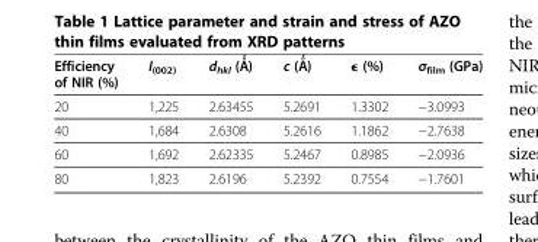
<table><thead><tr><td>Efficiency of NIR (%)</td><td>I<sub>(002)</sub></td><td>d<sub>hkl</sub> (Ǻ)</td><td>c (Ǻ)</td><td>ϵ (%)</td><td>σ<sub>film</sub> (GPa)</td></tr></thead><tbody><tr><td>20</td><td>1,225</td><td>2.63455</td><td>5.2691</td><td>1.3302</td><td>−3.0993</td></tr><tr><td>40</td><td>1,684</td><td>2.6308</td><td>5.2616</td><td>1.1862</td><td>−2.7638</td></tr><tr><td>60</td><td>1,692</td><td>2.62335</td><td>5.2467</td><td>0.8985</td><td>−2.0936</td></tr><tr><td>80</td><td>1,823</td><td>2.6196</td><td>5.2392</td><td>0.7554</td><td>−1.7601</td></tr></tbody></table>